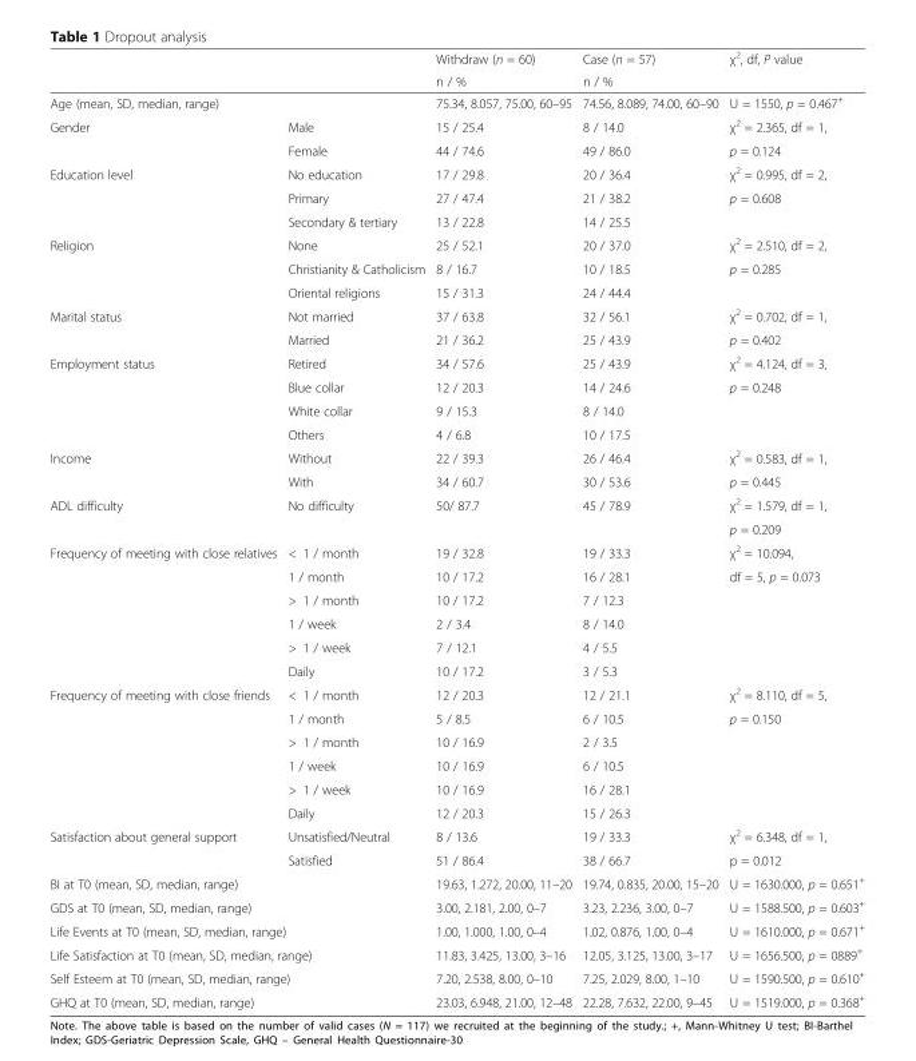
<table><thead><tr><td rowspan="2"></td><td rowspan="2"></td><td rowspan="2">Withdraw (n = 60) n / %</td><td rowspan="2">Case (n = 57) n / %</td><td rowspan="2">χ<sup>2</sup>, df, P value</td></tr><tr></tr></thead><tbody><tr><td>Age (mean, SD, median, range)</td><td></td><td>75.34, 8.057, 75.00, 60–95</td><td>74.56, 8.089, 74.00, 60–90</td><td>U = 1550, p = 0.467<sup>+</sup></td></tr><tr><td rowspan="2">Gender</td><td>Male</td><td>15 / 25.4</td><td>8 / 14.0</td><td>χ<sup>2</sup> = 2.365, df = 1,</td></tr><tr><td>Female</td><td>44 / 74.6</td><td>49 / 86.0</td><td>p = 0.124</td></tr><tr><td rowspan="3">Education level</td><td>No education</td><td>17 / 29.8</td><td>20 / 36.4</td><td>χ<sup>2</sup> = 0.995, df = 2,</td></tr><tr><td>Primary</td><td>27 / 47.4</td><td>21 / 38.2</td><td>p = 0.608</td></tr><tr><td>Secondary &amp; tertiary</td><td>13 / 22.8</td><td>14 / 25.5</td><td></td></tr><tr><td rowspan="3">Religion</td><td>None</td><td>25 / 52.1</td><td>20 / 37.0</td><td>χ<sup>2</sup> = 2.510, df = 2,</td></tr><tr><td>Christianity &amp; Catholicism</td><td>8 / 16.7</td><td>10 / 18.5</td><td>p = 0.285</td></tr><tr><td>Oriental religions</td><td>15 / 31.3</td><td>24 / 44.4</td><td></td></tr><tr><td rowspan="2">Marital status</td><td>Not married</td><td>37 / 63.8</td><td>32 / 56.1</td><td>χ<sup>2</sup> = 0.702, df = 1,</td></tr><tr><td>Married</td><td>21 / 36.2</td><td>25 / 43.9</td><td>p = 0.402</td></tr><tr><td rowspan="4">Employment status</td><td>Retired</td><td>34 / 57.6</td><td>25 / 43.9</td><td>χ<sup>2</sup> = 4.124, df = 3,</td></tr><tr><td>Blue collar</td><td>12 / 20.3</td><td>14 / 24.6</td><td>p = 0.248</td></tr><tr><td>White collar</td><td>9 / 15.3</td><td>8 / 14.0</td><td></td></tr><tr><td>Others</td><td>4 / 6.8</td><td>10 / 17.5</td><td></td></tr><tr><td rowspan="2">Income</td><td>Without</td><td>22 / 39.3</td><td>26 / 46.4</td><td>χ<sup>2</sup> = 0.583, df = 1,</td></tr><tr><td>With</td><td>34 / 60.7</td><td>30 / 53.6</td><td>p = 0.445</td></tr><tr><td rowspan="2">ADL difficulty</td><td>No difficulty</td><td>50/ 87.7</td><td>45 / 78.9</td><td>χ<sup>2</sup> = 1.579, df = 1,</td></tr><tr><td></td><td></td><td></td><td>p = 0.209</td></tr><tr><td rowspan="6">Frequency of meeting with close relatives</td><td>&lt; 1 / month</td><td>19 / 32.8</td><td>19 / 33.3</td><td>χ<sup>2</sup> = 10.094,</td></tr><tr><td>1 / month</td><td>10 / 17.2</td><td>16 / 28.1</td><td>df = 5, p = 0.073</td></tr><tr><td>&gt; 1 / month</td><td>10 / 17.2</td><td>7 / 12.3</td><td></td></tr><tr><td>1 / week</td><td>2 / 3.4</td><td>8 / 14.0</td><td></td></tr><tr><td>&gt; 1 / week</td><td>7 / 12.1</td><td>4 / 5.5</td><td></td></tr><tr><td>Daily</td><td>10 / 17.2</td><td>3 / 5.3</td><td></td></tr><tr><td rowspan="6">Frequency of meeting with close friends</td><td>&lt; 1 / month</td><td>12 / 20.3</td><td>12 / 21.1</td><td>χ<sup>2</sup> = 8.110, df = 5,</td></tr><tr><td>1 / month</td><td>5 / 8.5</td><td>6 / 10.5</td><td>p = 0.150</td></tr><tr><td>&gt; 1 / month</td><td>10 / 16.9</td><td>2 / 3.5</td><td></td></tr><tr><td>1 / week</td><td>10 / 16.9</td><td>6 / 10.5</td><td></td></tr><tr><td>&gt; 1 / week</td><td>10 / 16.9</td><td>16 / 28.1</td><td></td></tr><tr><td>Daily</td><td>12 / 20.3</td><td>15 / 26.3</td><td></td></tr><tr><td rowspan="2">Satisfaction about general support</td><td>Unsatisfied/Neutral</td><td>8 / 13.6</td><td>19 / 33.3</td><td>χ<sup>2</sup> = 6.348, df = 1,</td></tr><tr><td>Satisfied</td><td>51 / 86.4</td><td>38 / 66.7</td><td>p = 0.012</td></tr><tr><td colspan="2">BI at T0 (mean, SD, median, range)</td><td>19.63, 1.272, 20.00, 11–20</td><td>19.74, 0.835, 20.00, 15–20</td><td>U = 1630.000, p = 0.651<sup>+</sup></td></tr><tr><td colspan="2">GDS at T0 (mean, SD, median, range)</td><td>3.00, 2.181, 2.00, 0–7</td><td>3.23, 2.236, 3.00, 0–7</td><td>U = 1588.500, p = 0.603<sup>+</sup></td></tr><tr><td colspan="2">Life Events at T0 (mean, SD, median, range)</td><td>1.00, 1.000, 1.00, 0–4</td><td>1.02, 0.876, 1.00, 0–4</td><td>U = 1610.000, p = 0.671<sup>+</sup></td></tr><tr><td colspan="2">Life Satisfaction at T0 (mean, SD, median, range)</td><td>11.83, 3.425, 13.00, 3–16</td><td>12.05, 3.125, 13.00, 3–17</td><td>U = 1656.500, p = 0889<sup>+</sup></td></tr><tr><td colspan="2">Self Esteem at T0 (mean, SD, median, range)</td><td>7.20, 2.538, 8.00, 0–10</td><td>7.25, 2.029, 8.00, 1–10</td><td>U = 1590.500, p = 0.610<sup>+</sup></td></tr><tr><td colspan="2">GHQ at T0 (mean, SD, median, range)</td><td>23.03, 6.948, 21.00, 12–48</td><td>22.28, 7.632, 22.00, 9–45</td><td>U = 1519.000, p = 0.368<sup>+</sup></td></tr></tbody></table>